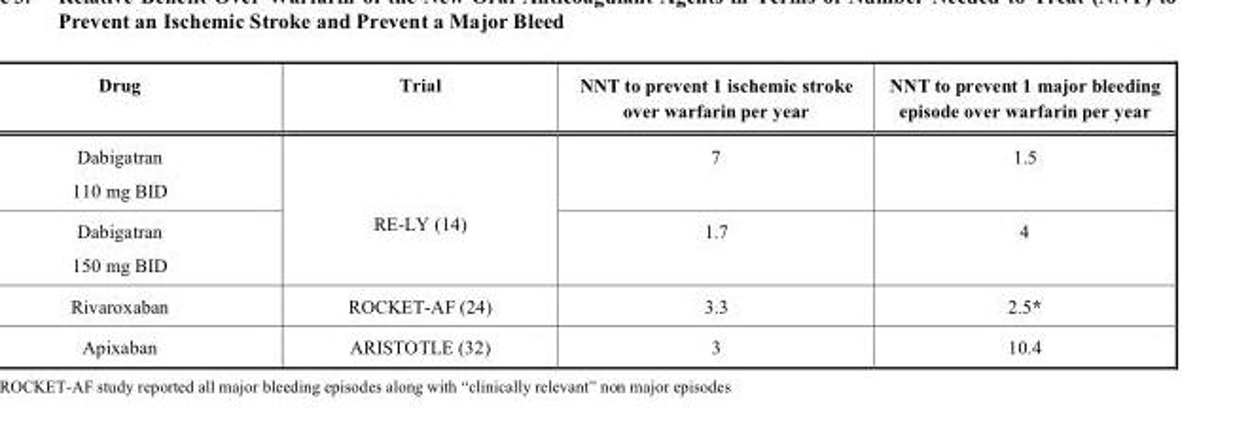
<table><thead><tr><td>Drug</td><td>Trial</td><td>NNT to prevent 1 ischemic stroke over warfarin per year</td><td>NNT to prevent 1 major bleeding episode over warfarin per year</td></tr></thead><tbody><tr><td>Dabigatran 110 mg BID</td><td rowspan="2">RE-LY (14)</td><td>7</td><td>1.5</td></tr><tr><td>Dabigatran 150 mg BID</td><td>1.7</td><td>4</td></tr><tr><td>Rivaroxaban</td><td>ROCKET-AF (24)</td><td>3.3</td><td>2.5*</td></tr><tr><td>Apixaban</td><td>ARISTOTLE (32)</td><td>3</td><td>10.4</td></tr></tbody></table>